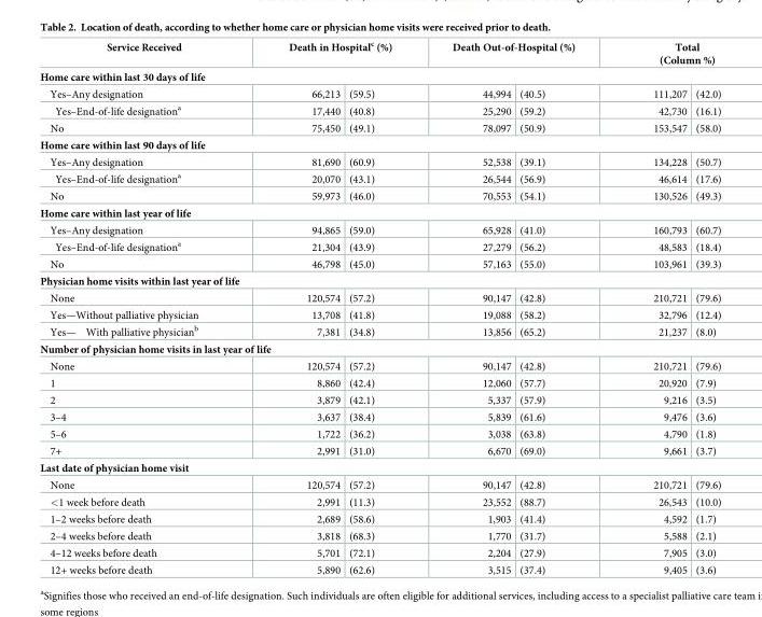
<table><thead><tr><td>Service Received</td><td colspan="2">Death in Hospital<sup>c</sup> (%)</td><td colspan="2">Death Out-of-Hospital (%)</td><td colspan="2">Total (Column %)</td></tr><tr><td colspan="7">Home care within last 30 days of life</td></tr><tr><td>Yes–Any designation</td><td>66,213</td><td>(59.5)</td><td>44,994</td><td>(40.5)</td><td>111,207</td><td>(42.0)</td></tr></thead><tbody><tr><td>Yes–End-of-life designation<sup>a</sup></td><td>17,440</td><td>(40.8)</td><td>25,290</td><td>(59.2)</td><td>42,730</td><td>(16.1)</td></tr><tr><td>No</td><td>75,450</td><td>(49.1)</td><td>78,097</td><td>(50.9)</td><td>153,547</td><td>(58.0)</td></tr><tr><td colspan="7">Home care within last 90 days of life</td></tr><tr><td>Yes–Any designation</td><td>81,690</td><td>(60.9)</td><td>52,538</td><td>(39.1)</td><td>134,228</td><td>(50.7)</td></tr><tr><td>Yes–End-of-life designation<sup>a</sup></td><td>20,070</td><td>(43.1)</td><td>26,544</td><td>(56.9)</td><td>46,614</td><td>(17.6)</td></tr><tr><td>No</td><td>59,973</td><td>(46.0)</td><td>70,553</td><td>(54.1)</td><td>130,526</td><td>(49.3)</td></tr><tr><td colspan="7">Home care within last year of life</td></tr><tr><td>Yes–Any designation</td><td>94,865</td><td>(59.0)</td><td>65,928</td><td>(41.0)</td><td>160,793</td><td>(60.7)</td></tr><tr><td>Yes–End-of-life designation<sup>a</sup></td><td>21,304</td><td>(43.9)</td><td>27,279</td><td>(56.2)</td><td>48,583</td><td>(18.4)</td></tr><tr><td>No</td><td>46,798</td><td>(45.0)</td><td>57,163</td><td>(55.0)</td><td>103,961</td><td>(39.3)</td></tr><tr><td colspan="7">Physician home visits within last year of life</td></tr><tr><td>None</td><td>120,574</td><td>(57.2)</td><td>90,147</td><td>(42.8)</td><td>210,721</td><td>(79.6)</td></tr><tr><td>Yes—Without palliative physician</td><td>13,708</td><td>(41.8)</td><td>19,088</td><td>(58.2)</td><td>32,796</td><td>(12.4)</td></tr><tr><td>Yes— With palliative physician<sup>b</sup></td><td>7,381</td><td>(34.8)</td><td>13,856</td><td>(65.2)</td><td>21,237</td><td>(8.0)</td></tr><tr><td colspan="7">Number of physician home visits in last year of life</td></tr><tr><td>None</td><td>120,574</td><td>(57.2)</td><td>90,147</td><td>(42.8)</td><td>210,721</td><td>(79.6)</td></tr><tr><td>1</td><td>8,860</td><td>(42.4)</td><td>12,060</td><td>(57.7)</td><td>20,920</td><td>(7.9)</td></tr><tr><td>2</td><td>3,879</td><td>(42.1)</td><td>5,337</td><td>(57.9)</td><td>9,216</td><td>(3.5)</td></tr><tr><td>3–4</td><td>3,637</td><td>(38.4)</td><td>5,839</td><td>(61.6)</td><td>9,476</td><td>(3.6)</td></tr><tr><td>5–6</td><td>1,722</td><td>(36.2)</td><td>3,038</td><td>(63.8)</td><td>4,790</td><td>(1.8)</td></tr><tr><td>7+</td><td>2,991</td><td>(31.0)</td><td>6,670</td><td>(69.0)</td><td>9,661</td><td>(3.7)</td></tr><tr><td colspan="7">Last date of physician home visit</td></tr><tr><td>None</td><td>120,574</td><td>(57.2)</td><td>90,147</td><td>(42.8)</td><td>210,721</td><td>(79.6)</td></tr><tr><td>&lt;1 week before death</td><td>2,991</td><td>(11.3)</td><td>23,552</td><td>(88.7)</td><td>26,543</td><td>(10.0)</td></tr><tr><td>1–2 weeks before death</td><td>2,689</td><td>(58.6)</td><td>1,903</td><td>(41.4)</td><td>4,592</td><td>(1.7)</td></tr><tr><td>2–4 weeks before death</td><td>3,818</td><td>(68.3)</td><td>1,770</td><td>(31.7)</td><td>5,588</td><td>(2.1)</td></tr><tr><td>4–12 weeks before death</td><td>5,701</td><td>(72.1)</td><td>2,204</td><td>(27.9)</td><td>7,905</td><td>(3.0)</td></tr><tr><td>12+ weeks before death</td><td>5,890</td><td>(62.6)</td><td>3,515</td><td>(37.4)</td><td>9,405</td><td>(3.6)</td></tr></tbody></table>